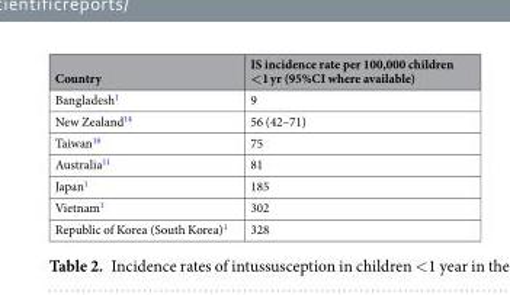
<table><thead><tr><td>Country</td><td>IS incidence rate per 100,000 children &lt;1 yr (95%CI where available)</td></tr></thead><tbody><tr><td>Bangladesh<sup>1</sup></td><td>9</td></tr><tr><td>New Zealand<sup>14</sup></td><td>56 (42–71)</td></tr><tr><td>Taiwan<sup>16</sup></td><td>75</td></tr><tr><td>Australia<sup>11</sup></td><td>81</td></tr><tr><td>Japan<sup>1</sup></td><td>185</td></tr><tr><td>Vietnam<sup>1</sup></td><td>302</td></tr><tr><td>Republic of Korea (South Korea)<sup>1</sup></td><td>328</td></tr></tbody></table>